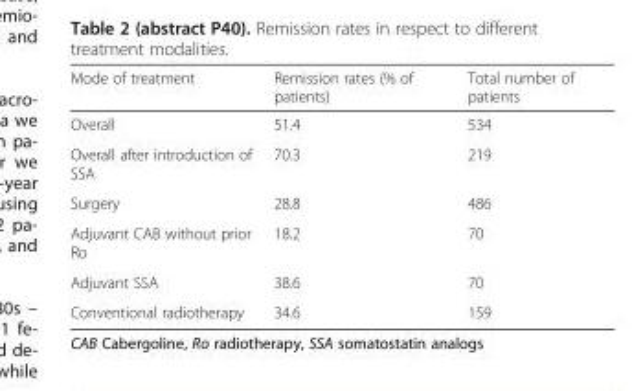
<table><thead><tr><td>Mode of treatment</td><td>Remission rates (% of patients)</td><td>Total number of patients</td></tr></thead><tbody><tr><td>Overall</td><td>51.4</td><td>534</td></tr><tr><td>Overall after introduction of SSA</td><td>70.3</td><td>219</td></tr><tr><td>Surgery</td><td>28.8</td><td>486</td></tr><tr><td>Adjuvant CAB without prior Ro</td><td>18.2</td><td>70</td></tr><tr><td>Adjuvant SSA</td><td>38.6</td><td>70</td></tr><tr><td>Conventional radiotherapy</td><td>34.6</td><td>159</td></tr></tbody></table>